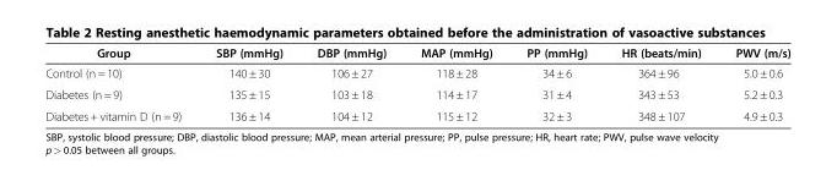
<table><thead><tr><td>Group</td><td>SBP (mmHg)</td><td>DBP (mmHg)</td><td>MAP (mmHg)</td><td>PP (mmHg)</td><td>HR (beats/min)</td><td>PWV (m/s)</td></tr></thead><tbody><tr><td>Control (n = 10)</td><td>140 ± 30</td><td>106 ± 27</td><td>118 ± 28</td><td>34 ± 6</td><td>364 ± 96</td><td>5.0 ± 0.6</td></tr><tr><td>Diabetes (n = 9)</td><td>135 ± 15</td><td>103 ± 18</td><td>114 ± 17</td><td>31 ± 4</td><td>343 ± 53</td><td>5.2 ± 0.3</td></tr><tr><td>Diabetes + vitamin D (n = 9)</td><td>136 ± 14</td><td>104 ± 12</td><td>115 ± 12</td><td>32 ± 3</td><td>348 ± 107</td><td>4.9 ± 0.3</td></tr></tbody></table>